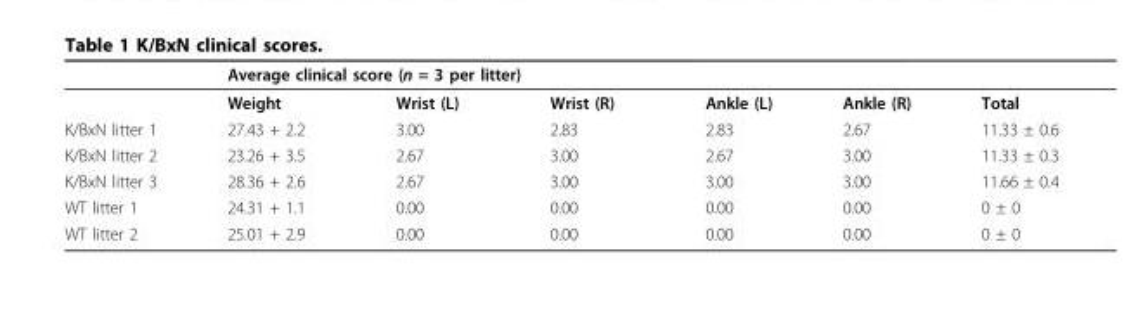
<table><thead><tr><td rowspan="2"></td><td colspan="3">Average clinical score (n = 3 per litter)</td><td rowspan="2">Ankle (L)</td><td rowspan="2">Ankle (R)</td><td rowspan="2">Total</td></tr><tr><td>Weight</td><td>Wrist (L)</td><td>Wrist (R)</td></tr></thead><tbody><tr><td>K/BxN litter 1</td><td>27.43 + 2.2</td><td>3.00</td><td>2.83</td><td>2.83</td><td>2.67</td><td>11.33 ± 0.6</td></tr><tr><td>K/BxN litter 2</td><td>23.26 + 3.5</td><td>2.67</td><td>3.00</td><td>2.67</td><td>3.00</td><td>11.33 ± 0.3</td></tr><tr><td>K/BxN litter 3</td><td>28.36 + 2.6</td><td>2.67</td><td>3.00</td><td>3.00</td><td>3.00</td><td>11.66 ± 0.4</td></tr><tr><td>WT litter 1</td><td>24.31 + 1.1</td><td>0.00</td><td>0.00</td><td>0.00</td><td>0.00</td><td>0 ± 0</td></tr><tr><td>WT litter 2</td><td>25.01 + 2.9</td><td>0.00</td><td>0.00</td><td>0.00</td><td>0.00</td><td>0 ± 0</td></tr></tbody></table>